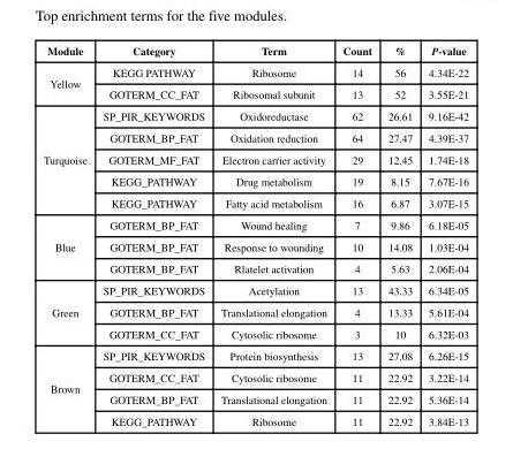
<table><thead><tr><td>Module</td><td>Category</td><td>Term</td><td>Count</td><td>%</td><td>P-value</td></tr></thead><tbody><tr><td rowspan="2">Yellow</td><td>KEGG PATHWAY</td><td>Ribosome</td><td>14</td><td>56</td><td>4.34E-22</td></tr><tr><td>GOTERM_CC_FAT</td><td>Ribosomal subunit</td><td>13</td><td>52</td><td>3.55E-21</td></tr><tr><td rowspan="5">Turquoise</td><td>SP_PIR_KEYWORDS</td><td>Oxidoreductase</td><td>62</td><td>26.61</td><td>9.16E-42</td></tr><tr><td>GOTERM_BP_FAT</td><td>Oxidation reduction</td><td>64</td><td>27.47</td><td>4.39E-37</td></tr><tr><td>GOTERM_MF_FAT</td><td>Electron carrier activity</td><td>29</td><td>12.45</td><td>1.74E-18</td></tr><tr><td>KEGG_PATHWAY</td><td>Drug metabolism</td><td>19</td><td>8.15</td><td>7.67E-16</td></tr><tr><td>KEGG_PATHWAY</td><td>Fatty acid metabolism</td><td>16</td><td>6.87</td><td>3.07E-15</td></tr><tr><td rowspan="3">Blue</td><td>GOTERM_BP_FAT</td><td>Wound healing</td><td>7</td><td>9.86</td><td>6.18E-05</td></tr><tr><td>GOTERM_BP_FAT</td><td>Response to wounding</td><td>10</td><td>14.08</td><td>1.03E-04</td></tr><tr><td>GOTERM_BP_FAT</td><td>Rlatelet activation</td><td>4</td><td>5.63</td><td>2.06E-04</td></tr><tr><td rowspan="3">Green</td><td>SP_PIR_KEYWORDS</td><td>Acetylation</td><td>13</td><td>43.33</td><td>6.34E-05</td></tr><tr><td>GOTERM_BP_FAT</td><td>Translational elongation</td><td>4</td><td>13.33</td><td>5.61E-04</td></tr><tr><td>GOTERM_CC_FAT</td><td>Cytosolic ribosome</td><td>3</td><td>10</td><td>6.32E-03</td></tr><tr><td rowspan="4">Brown</td><td>SP_PIR_KEYWORDS</td><td>Protein biosynthesis</td><td>13</td><td>27.08</td><td>6.26E-15</td></tr><tr><td>GOTERM_CC_FAT</td><td>Cytosolic ribosome</td><td>11</td><td>22.92</td><td>3.22E-14</td></tr><tr><td>GOTERM_BP_FAT</td><td>Translational elongation</td><td>11</td><td>22.92</td><td>5.36E-14</td></tr><tr><td>KEGG_PATHWAY</td><td>Ribosome</td><td>11</td><td>22.92</td><td>3.84E-13</td></tr></tbody></table>